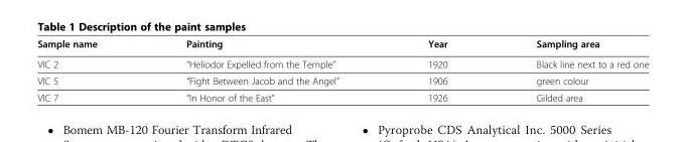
<table><thead><tr><td>Sample name</td><td>Painting</td><td>Year</td><td>Sampling area</td></tr></thead><tbody><tr><td>VIC 2</td><td>“Heliodor Expelled from the Temple”</td><td>1920</td><td>Black line next to a red one</td></tr><tr><td>VIC 5</td><td>“Fight Between Jacob and the Angel”</td><td>1906</td><td>green colour</td></tr><tr><td>VIC 7</td><td>“In Honor of the East”</td><td>1926</td><td>Gilded area</td></tr></tbody></table>